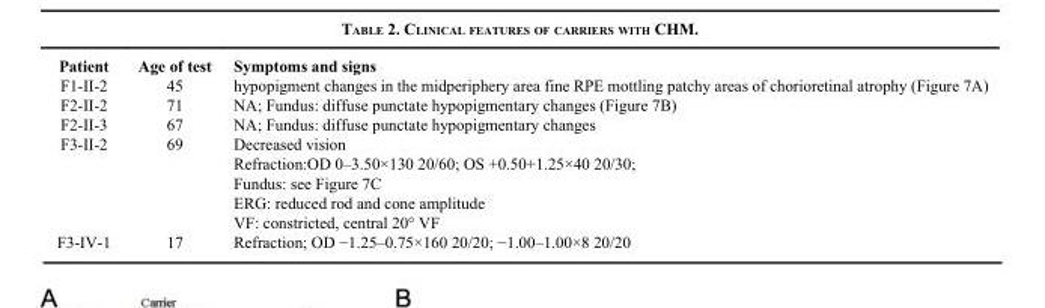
<table><thead><tr><td>Patient</td><td>Age of test</td><td>Symptoms and signs</td></tr></thead><tbody><tr><td>F1-II-2</td><td>45</td><td>hypopigment changes in the midperiphery area fine RPE mottling patchy areas of chorioretinal atrophy (Figure 7A)</td></tr><tr><td>F2-II-2</td><td>71</td><td>NA; Fundus: diffuse punctate hypopigmentary changes (Figure 7B)</td></tr><tr><td>F2-II-3</td><td>67</td><td>NA; Fundus: diffuse punctate hypopigmentary changes</td></tr><tr><td>F3-II-2</td><td>69</td><td>Decreased vision Refraction:OD 0–3.50×130 20/60; OS +0.50+1.25×40 20/30; Fundus: see Figure 7C ERG: reduced rod and cone amplitude VF: constricted, central 20° VF</td></tr><tr><td>F3-IV-1</td><td>17</td><td>Refraction; OD −1.25–0.75×160 20/20; −1.00–1.00×8 20/20</td></tr></tbody></table>